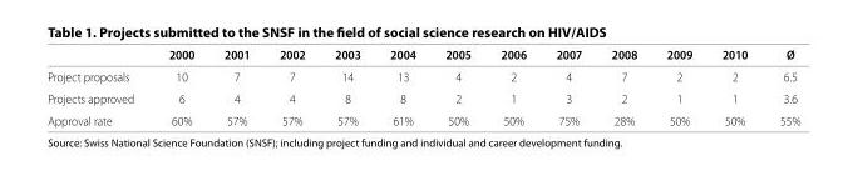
<table><thead><tr><td></td><td>2000</td><td>2001</td><td>2002</td><td>2003</td><td>2004</td><td>2005</td><td>2006</td><td>2007</td><td>2008</td><td>2009</td><td>2010</td><td>Ø</td></tr></thead><tbody><tr><td>Project proposals</td><td>10</td><td>7</td><td>7</td><td>14</td><td>13</td><td>4</td><td>2</td><td>4</td><td>7</td><td>2</td><td>2</td><td>6.5</td></tr><tr><td>Projects approved</td><td>6</td><td>4</td><td>4</td><td>8</td><td>8</td><td>2</td><td>1</td><td>3</td><td>2</td><td>1</td><td>1</td><td>3.6</td></tr><tr><td>Approval rate</td><td>60%</td><td>57%</td><td>57%</td><td>57%</td><td>61%</td><td>50%</td><td>50%</td><td>75%</td><td>28%</td><td>50%</td><td>50%</td><td>55%</td></tr></tbody></table>